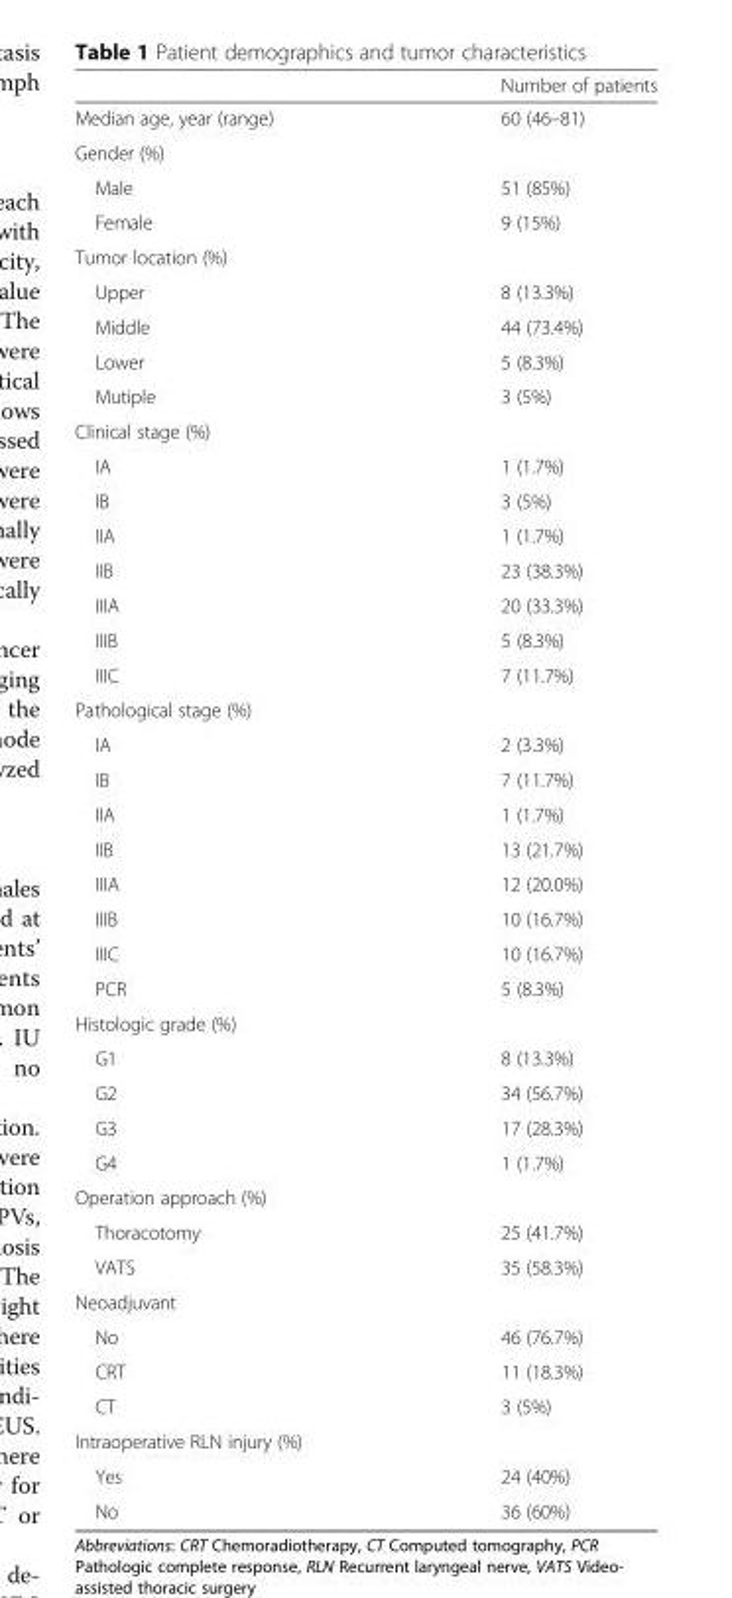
<table><thead><tr><td></td><td>Number of patients</td></tr></thead><tbody><tr><td>Median age, year (range)</td><td>60 (46–81)</td></tr><tr><td colspan="2">Gender (%)</td></tr><tr><td>Male</td><td>51 (85%)</td></tr><tr><td>Female</td><td>9 (15%)</td></tr><tr><td colspan="2">Tumor location (%)</td></tr><tr><td>Upper</td><td>8 (13.3%)</td></tr><tr><td>Middle</td><td>44 (73.4%)</td></tr><tr><td>Lower</td><td>5 (8.3%)</td></tr><tr><td>Mutiple</td><td>3 (5%)</td></tr><tr><td colspan="2">Clinical stage (%)</td></tr><tr><td>IA</td><td>1 (1.7%)</td></tr><tr><td>IB</td><td>3 (5%)</td></tr><tr><td>IIA</td><td>1 (1.7%)</td></tr><tr><td>IIB</td><td>23 (38.3%)</td></tr><tr><td>IIIA</td><td>20 (33.3%)</td></tr><tr><td>IIIB</td><td>5 (8.3%)</td></tr><tr><td>IIIC</td><td>7 (11.7%)</td></tr><tr><td colspan="2">Pathological stage (%)</td></tr><tr><td>IA</td><td>2 (3.3%)</td></tr><tr><td>IB</td><td>7 (11.7%)</td></tr><tr><td>IIA</td><td>1 (1.7%)</td></tr><tr><td>IIB</td><td>13 (21.7%)</td></tr><tr><td>IIIA</td><td>12 (20.0%)</td></tr><tr><td>IIIB</td><td>10 (16.7%)</td></tr><tr><td>IIIC</td><td>10 (16.7%)</td></tr><tr><td>PCR</td><td>5 (8.3%)</td></tr><tr><td colspan="2">Histologic grade (%)</td></tr><tr><td>G1</td><td>8 (13.3%)</td></tr><tr><td>G2</td><td>34 (56.7%)</td></tr><tr><td>G3</td><td>17 (28.3%)</td></tr><tr><td>G4</td><td>1 (1.7%)</td></tr><tr><td colspan="2">Operation approach (%)</td></tr><tr><td>Thoracotomy</td><td>25 (41.7%)</td></tr><tr><td>VATS</td><td>35 (58.3%)</td></tr><tr><td colspan="2">Neoadjuvant</td></tr><tr><td>No</td><td>46 (76.7%)</td></tr><tr><td>CRT</td><td>11 (18.3%)</td></tr><tr><td>CT</td><td>3 (5%)</td></tr><tr><td colspan="2">Intraoperative RLN injury (%)</td></tr><tr><td>Yes</td><td>24 (40%)</td></tr><tr><td>No</td><td>36 (60%)</td></tr></tbody></table>